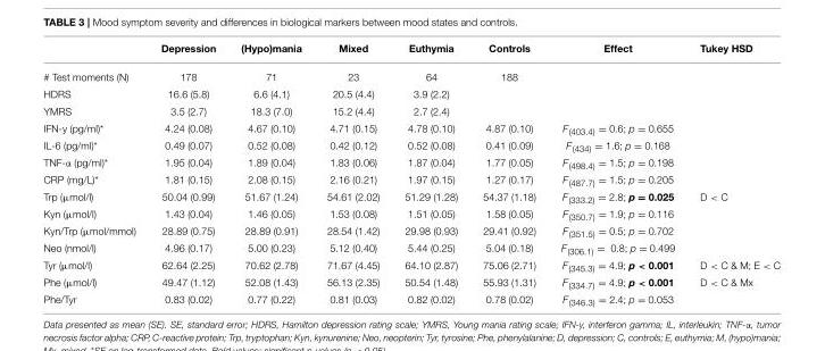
<table><thead><tr><td></td><td>Depression</td><td>(Hypo)mania</td><td>Mixed</td><td>Euthymia</td><td>Controls</td><td>Effect</td><td>Tukey HSD</td></tr></thead><tbody><tr><td># Test moments (N)</td><td>178</td><td>71</td><td>23</td><td>64</td><td>188</td><td></td><td></td></tr><tr><td>HDRS</td><td>16.6 (5.8)</td><td>6.6 (4.1)</td><td>20.5 (4.4)</td><td>3.9 (2.2)</td><td></td><td></td><td></td></tr><tr><td>YMRS</td><td>3.5 (2.7)</td><td>18.3 (7.0)</td><td>15.2 (4.4)</td><td>2.7 (2.4)</td><td></td><td></td><td></td></tr><tr><td>IFN-y (pg/ml)*</td><td>4.24 (0.08)</td><td>4.67 (0.10)</td><td>4.71 (0.15)</td><td>4.78 (0.10)</td><td>4.87 (0.10)</td><td>F<sub>(403.4)</sub> = 0.6; p = 0.655</td><td></td></tr><tr><td>IL-6 (pg/ml)*</td><td>0.49 (0.07)</td><td>0.52 (0.08)</td><td>0.42 (0.12)</td><td>0.52 (0.08)</td><td>0.41 (0.09)</td><td>F<sub>(434)</sub> = 1.6; p = 0.168</td><td></td></tr><tr><td>TNF-α (pg/ml)*</td><td>1.95 (0.04)</td><td>1.89 (0.04)</td><td>1.83 (0.06)</td><td>1.87 (0.04)</td><td>1.77 (0.05)</td><td>F<sub>(498.4)</sub> = 1.5; p = 0.198</td><td></td></tr><tr><td>CRP (mg/L)*</td><td>1.81 (0.15)</td><td>2.08 (0.15)</td><td>2.16 (0.21)</td><td>1.97 (0.15)</td><td>1.27 (0.17)</td><td>F<sub>(487.7)</sub> = 1.5; p = 0.205</td><td></td></tr><tr><td>Trp (µmol/l)</td><td>50.04 (0.99)</td><td>51.67 (1.24)</td><td>54.61 (2.02)</td><td>51.29 (1.28)</td><td>54.37 (1.18)</td><td>F<sub>(333.2)</sub> = 2.8; p = 0.025</td><td>D &lt; C</td></tr><tr><td>Kyn (µmol/l)</td><td>1.43 (0.04)</td><td>1.46 (0.05)</td><td>1.53 (0.08)</td><td>1.51 (0.05)</td><td>1.58 (0.05)</td><td>F<sub>(350.7)</sub> = 1.9; p = 0.116</td><td></td></tr><tr><td>Kyn/Trp (µmol/mmol)</td><td>28.89 (0.75)</td><td>28.89 (0.91)</td><td>28.54 (1.42)</td><td>29.98 (0.93)</td><td>29.41 (0.92)</td><td>F<sub>(351.5)</sub> = 0.5; p = 0.702</td><td></td></tr><tr><td>Neo (nmol/l)</td><td>4.96 (0.17)</td><td>5.00 (0.23)</td><td>5.12 (0.40)</td><td>5.44 (0.25)</td><td>5.04 (0.18)</td><td>F<sub>(306.1)</sub> = 0.8; p = 0.499</td><td></td></tr><tr><td>Tyr (µmol/l)</td><td>62.64 (2.25)</td><td>70.62 (2.78)</td><td>71.67 (4.45)</td><td>64.10 (2.87)</td><td>75.06 (2.71)</td><td>F<sub>(345.3)</sub> = 4.9; p &lt; 0.001</td><td>D &lt; C &amp; M; E &lt; C</td></tr><tr><td>Phe (µmol/l)</td><td>49.47 (1.12)</td><td>52.08 (1.43)</td><td>56.13 (2.35)</td><td>50.54 (1.48)</td><td>55.93 (1.31)</td><td>F<sub>(334.7)</sub> = 4.9; p &lt; 0.001</td><td>D &lt; C &amp; Mx</td></tr><tr><td>Phe/Tyr</td><td>0.83 (0.02)</td><td>0.77 (0.22)</td><td>0.81 (0.03)</td><td>0.82 (0.02)</td><td>0.78 (0.02)</td><td>F<sub>(346.3)</sub> = 2.4; p = 0.053</td><td></td></tr></tbody></table>